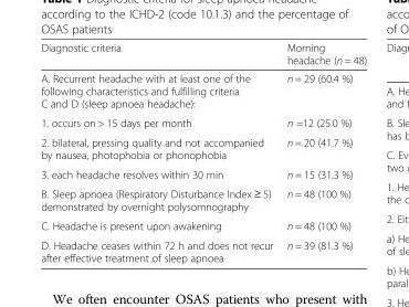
<table><thead><tr><td>Diagnostic criteria</td><td>Morning headache (n = 48)</td></tr></thead><tbody><tr><td>A. Recurrent headache with at least one of the following characteristics and fulfilling criteria C and D (sleep apnoea headache):</td><td>n = 29 (60.4 %)</td></tr><tr><td>1. occurs on &gt; 15 days per month</td><td>n =12 (25.0 %)</td></tr><tr><td>2. bilateral, pressing quality and not accompanied by nausea, photophobia or phonophobia</td><td>n = 20 (41.7 %)</td></tr><tr><td>3. each headache resolves within 30 min</td><td>n = 15 (31.3 %)</td></tr><tr><td>B. Sleep apnoea (Respiratory Disturbance Index ≥ 5) demonstrated by overnight polysomnography</td><td>n = 48 (100 %)</td></tr><tr><td>C. Headache is present upon awakening</td><td>n = 48 (100 %)</td></tr><tr><td>D. Headache ceases within 72 h and does not recur after effective treatment of sleep apnoea</td><td>n = 39 (81.3 %)</td></tr></tbody></table>